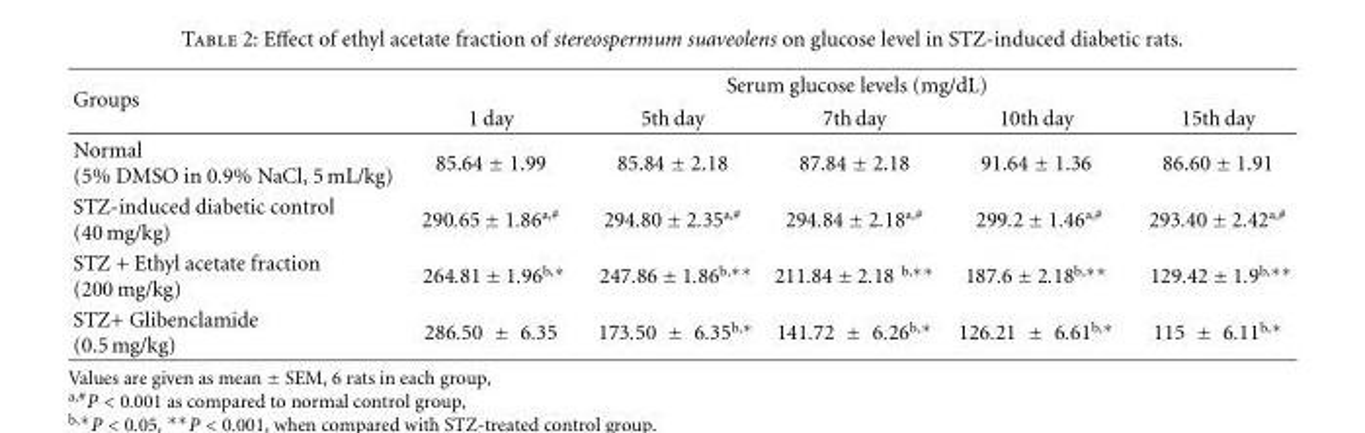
<table><thead><tr><td rowspan="2">Groups</td><td colspan="5">Serum glucose levels (mg/dL)</td></tr><tr><td>1 day</td><td>5th day</td><td>7th day</td><td>10th day</td><td>15th day</td></tr></thead><tbody><tr><td>Normal (5% DMSO in 0.9% NaCl, 5 mL/kg)</td><td>85.64 ± 1.99</td><td>85.84 ± 2.18</td><td>87.84 ± 2.18</td><td>91.64 ± 1.36</td><td>86.60 ± 1.91</td></tr><tr><td>STZ-induced diabetic control (40 mg/kg)</td><td>290.65 ± 1.86<sup>a,#</sup></td><td>294.80 ± 2.35<sup>a,#</sup></td><td>294.84 ± 2.18<sup>a,#</sup></td><td>299.2 ± 1.46<sup>a,#</sup></td><td>293.40 ± 2.42<sup>a,#</sup></td></tr><tr><td>STZ + Ethyl acetate fraction (200 mg/kg)</td><td>264.81 ± 1.96<sup>b,∗</sup></td><td>247.86 ± 1.86<sup>b,∗∗</sup></td><td>211.84 ± 2.18 <sup>b,∗∗</sup></td><td>187.6 ± 2.18<sup>b,∗∗</sup></td><td>129.42 ± 1.9<sup>b,∗∗</sup></td></tr><tr><td>STZ+ Glibenclamide (0.5 mg/kg)</td><td>286.50 ± 6.35</td><td>173.50 ± 6.35<sup>b,∗</sup></td><td>141.72 ± 6.26<sup>b,∗</sup></td><td>126.21 ± 6.61<sup>b,∗</sup></td><td>115 ± 6.11<sup>b,∗</sup></td></tr></tbody></table>